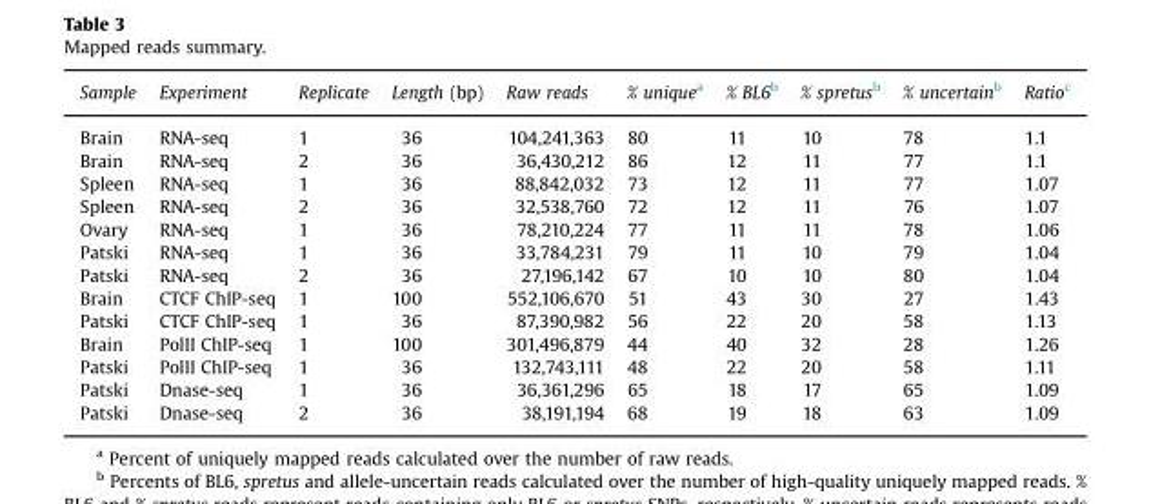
<table><thead><tr><td>Sample</td><td>Experiment</td><td>Replicate</td><td>Length (bp)</td><td>Raw reads</td><td>% unique<sup>a</sup></td><td>% BL6<sup>b</sup></td><td>% spretus<sup>b</sup></td><td>% uncertain<sup>b</sup></td><td>Ratio<sup>c</sup></td></tr></thead><tbody><tr><td>Brain</td><td>RNA-seq</td><td>1</td><td>36</td><td>104,241,363</td><td>80</td><td>11</td><td>10</td><td>78</td><td>1.1</td></tr><tr><td>Brain</td><td>RNA-seq</td><td>2</td><td>36</td><td>36,430,212</td><td>86</td><td>12</td><td>11</td><td>77</td><td>1.1</td></tr><tr><td>Spleen</td><td>RNA-seq</td><td>1</td><td>36</td><td>88,842,032</td><td>73</td><td>12</td><td>11</td><td>77</td><td>1.07</td></tr><tr><td>Spleen</td><td>RNA-seq</td><td>2</td><td>36</td><td>32,538,760</td><td>72</td><td>12</td><td>11</td><td>76</td><td>1.07</td></tr><tr><td>Ovary</td><td>RNA-seq</td><td>1</td><td>36</td><td>78,210,224</td><td>77</td><td>11</td><td>11</td><td>78</td><td>1.06</td></tr><tr><td>Patski</td><td>RNA-seq</td><td>1</td><td>36</td><td>33,784,231</td><td>79</td><td>11</td><td>10</td><td>79</td><td>1.04</td></tr><tr><td>Patski</td><td>RNA-seq</td><td>2</td><td>36</td><td>27,196,142</td><td>67</td><td>10</td><td>10</td><td>80</td><td>1.04</td></tr><tr><td>Brain</td><td>CTCF ChIP-seq</td><td>1</td><td>100</td><td>552,106,670</td><td>51</td><td>43</td><td>30</td><td>27</td><td>1.43</td></tr><tr><td>Patski</td><td>CTCF ChIP-seq</td><td>1</td><td>36</td><td>87,390,982</td><td>56</td><td>22</td><td>20</td><td>58</td><td>1.13</td></tr><tr><td>Brain</td><td>PolII ChIP-seq</td><td>1</td><td>100</td><td>301,496,879</td><td>44</td><td>40</td><td>32</td><td>28</td><td>1.26</td></tr><tr><td>Patski</td><td>PolII ChIP-seq</td><td>1</td><td>36</td><td>132,743,111</td><td>48</td><td>22</td><td>20</td><td>58</td><td>1.11</td></tr><tr><td>Patski</td><td>Dnase-seq</td><td>1</td><td>36</td><td>36,361,296</td><td>65</td><td>18</td><td>17</td><td>65</td><td>1.09</td></tr><tr><td>Patski</td><td>Dnase-seq</td><td>2</td><td>36</td><td>38,191,194</td><td>68</td><td>19</td><td>18</td><td>63</td><td>1.09</td></tr></tbody></table>